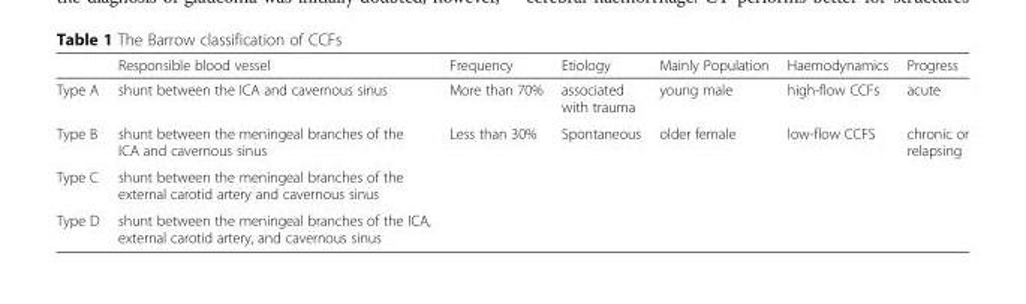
<table><thead><tr><td></td><td>Responsible blood vessel</td><td>Frequency</td><td>Etiology</td><td>Mainly Population</td><td>Haemodynamics</td><td>Progress</td></tr></thead><tbody><tr><td>Type A</td><td>shunt between the ICA and cavernous sinus</td><td>More than 70%</td><td>associated with trauma</td><td>young male</td><td>high-flow CCFs</td><td>acute</td></tr><tr><td>Type B</td><td>shunt between the meningeal branches of the ICA and cavernous sinus</td><td rowspan="3">Less than 30%</td><td rowspan="3">Spontaneous</td><td rowspan="3">older female</td><td rowspan="3">low-flow CCFS</td><td rowspan="3">chronic or relapsing</td></tr><tr><td>Type C</td><td>shunt between the meningeal branches of the external carotid artery and cavernous sinus</td></tr><tr><td>Type D</td><td>shunt between the meningeal branches of the ICA, external carotid artery, and cavernous sinus</td></tr></tbody></table>